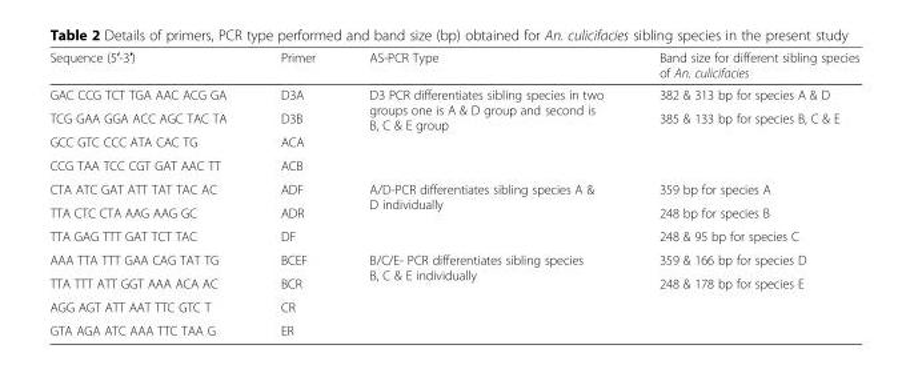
<table><thead><tr><td>Sequence (5′-3′)</td><td>Primer</td><td>AS-PCR Type</td><td>Band size for different sibling species of An. culicifacies</td></tr></thead><tbody><tr><td>GAC CCG TCT TGA AAC ACG GA</td><td>D3A</td><td rowspan="4">D3 PCR differentiates sibling species in two groups one is A &amp; D group and second is B, C &amp; E group</td><td>382 &amp; 313 bp for species A &amp; D</td></tr><tr><td>TCG GAA GGA ACC AGC TAC TA</td><td>D3B</td><td rowspan="3">385 &amp; 133 bp for species B, C &amp; E</td></tr><tr><td>GCC GTC CCC ATA CAC TG</td><td>ACA</td></tr><tr><td>CCG TAA TCC CGT GAT AAC TT</td><td>ACB</td></tr><tr><td>CTA ATC GAT ATT TAT TAC AC</td><td>ADF</td><td rowspan="3">A/D-PCR differentiates sibling species A &amp; D individually</td><td>359 bp for species A</td></tr><tr><td>TTA CTC CTA AAG AAG GC</td><td>ADR</td><td>248 bp for species B</td></tr><tr><td>TTA GAG TTT GAT TCT TAC</td><td>DF</td><td>248 &amp; 95 bp for species C</td></tr><tr><td>AAA TTA TTT GAA CAG TAT TG</td><td>BCEF</td><td rowspan="4">B/C/E- PCR differentiates sibling species B, C &amp; E individually</td><td>359 &amp; 166 bp for species D</td></tr><tr><td>TTA TTT ATT GGT AAA ACA AC</td><td>BCR</td><td rowspan="3">248 &amp; 178 bp for species E</td></tr><tr><td>AGG AGT ATT AAT TTC GTC T</td><td>CR</td></tr><tr><td>GTA AGA ATC AAA TTC TAA G</td><td>ER</td></tr></tbody></table>